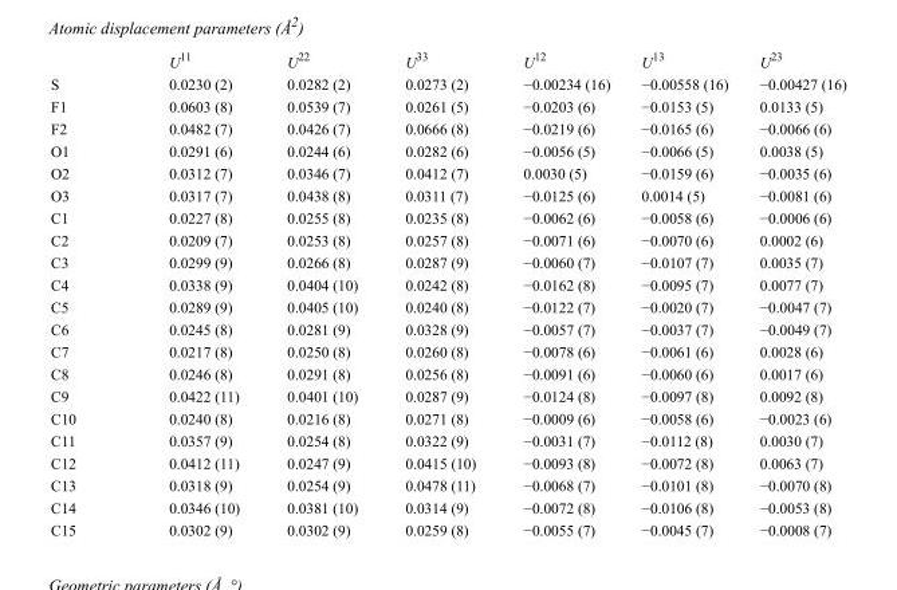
<table><thead><tr><td></td><td>U<sup>11</sup></td><td>U<sup>22</sup></td><td>U<sup>33</sup></td><td>U<sup>12</sup></td><td>U<sup>13</sup></td><td>U<sup>23</sup></td></tr></thead><tbody><tr><td>S</td><td>0.0230 (2)</td><td>0.0282 (2)</td><td>0.0273 (2)</td><td>−0.00234 (16)</td><td>−0.00558 (16)</td><td>−0.00427 (16)</td></tr><tr><td>F1</td><td>0.0603 (8)</td><td>0.0539 (7)</td><td>0.0261 (5)</td><td>−0.0203 (6)</td><td>−0.0153 (5)</td><td>0.0133 (5)</td></tr><tr><td>F2</td><td>0.0482 (7)</td><td>0.0426 (7)</td><td>0.0666 (8)</td><td>−0.0219 (6)</td><td>−0.0165 (6)</td><td>−0.0066 (6)</td></tr><tr><td>O1</td><td>0.0291 (6)</td><td>0.0244 (6)</td><td>0.0282 (6)</td><td>−0.0056 (5)</td><td>−0.0066 (5)</td><td>0.0038 (5)</td></tr><tr><td>O2</td><td>0.0312 (7)</td><td>0.0346 (7)</td><td>0.0412 (7)</td><td>0.0030 (5)</td><td>−0.0159 (6)</td><td>−0.0035 (6)</td></tr><tr><td>O3</td><td>0.0317 (7)</td><td>0.0438 (8)</td><td>0.0311 (7)</td><td>−0.0125 (6)</td><td>0.0014 (5)</td><td>−0.0081 (6)</td></tr><tr><td>C1</td><td>0.0227 (8)</td><td>0.0255 (8)</td><td>0.0235 (8)</td><td>−0.0062 (6)</td><td>−0.0058 (6)</td><td>−0.0006 (6)</td></tr><tr><td>C2</td><td>0.0209 (7)</td><td>0.0253 (8)</td><td>0.0257 (8)</td><td>−0.0071 (6)</td><td>−0.0070 (6)</td><td>0.0002 (6)</td></tr><tr><td>C3</td><td>0.0299 (9)</td><td>0.0266 (8)</td><td>0.0287 (9)</td><td>−0.0060 (7)</td><td>−0.0107 (7)</td><td>0.0035 (7)</td></tr><tr><td>C4</td><td>0.0338 (9)</td><td>0.0404 (10)</td><td>0.0242 (8)</td><td>−0.0162 (8)</td><td>−0.0095 (7)</td><td>0.0077 (7)</td></tr><tr><td>C5</td><td>0.0289 (9)</td><td>0.0405 (10)</td><td>0.0240 (8)</td><td>−0.0122 (7)</td><td>−0.0020 (7)</td><td>−0.0047 (7)</td></tr><tr><td>C6</td><td>0.0245 (8)</td><td>0.0281 (9)</td><td>0.0328 (9)</td><td>−0.0057 (7)</td><td>−0.0037 (7)</td><td>−0.0049 (7)</td></tr><tr><td>C7</td><td>0.0217 (8)</td><td>0.0250 (8)</td><td>0.0260 (8)</td><td>−0.0078 (6)</td><td>−0.0061 (6)</td><td>0.0028 (6)</td></tr><tr><td>C8</td><td>0.0246 (8)</td><td>0.0291 (8)</td><td>0.0256 (8)</td><td>−0.0091 (6)</td><td>−0.0060 (6)</td><td>0.0017 (6)</td></tr><tr><td>C9</td><td>0.0422 (11)</td><td>0.0401 (10)</td><td>0.0287 (9)</td><td>−0.0124 (8)</td><td>−0.0097 (8)</td><td>0.0092 (8)</td></tr><tr><td>C10</td><td>0.0240 (8)</td><td>0.0216 (8)</td><td>0.0271 (8)</td><td>−0.0009 (6)</td><td>−0.0058 (6)</td><td>−0.0023 (6)</td></tr><tr><td>C11</td><td>0.0357 (9)</td><td>0.0254 (8)</td><td>0.0322 (9)</td><td>−0.0031 (7)</td><td>−0.0112 (8)</td><td>0.0030 (7)</td></tr><tr><td>C12</td><td>0.0412 (11)</td><td>0.0247 (9)</td><td>0.0415 (10)</td><td>−0.0093 (8)</td><td>−0.0072 (8)</td><td>0.0063 (7)</td></tr><tr><td>C13</td><td>0.0318 (9)</td><td>0.0254 (9)</td><td>0.0478 (11)</td><td>−0.0068 (7)</td><td>−0.0101 (8)</td><td>−0.0070 (8)</td></tr><tr><td>C14</td><td>0.0346 (10)</td><td>0.0381 (10)</td><td>0.0314 (9)</td><td>−0.0072 (8)</td><td>−0.0106 (8)</td><td>−0.0053 (8)</td></tr><tr><td>C15</td><td>0.0302 (9)</td><td>0.0302 (9)</td><td>0.0259 (8)</td><td>−0.0055 (7)</td><td>−0.0045 (7)</td><td>−0.0008 (7)</td></tr></tbody></table>